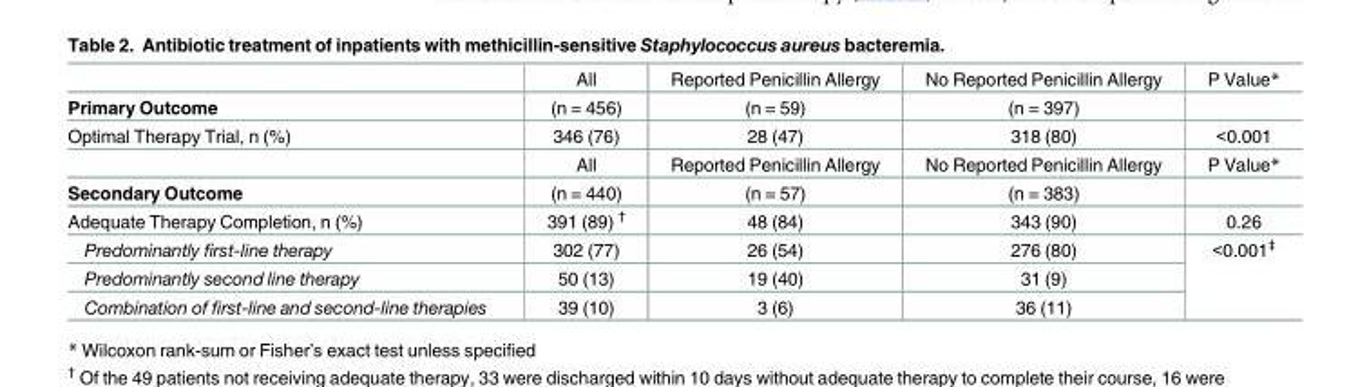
<table><thead><tr><td></td><td>All</td><td>Reported Penicillin Allergy</td><td>No Reported Penicillin Allergy</td><td>P Value*</td></tr></thead><tbody><tr><td>Primary Outcome</td><td>(n = 456)</td><td>(n = 59)</td><td>(n = 397)</td><td></td></tr><tr><td rowspan="2">Optimal Therapy Trial, n (%)</td><td>346 (76)</td><td>28 (47)</td><td>318 (80)</td><td>&lt;0.001</td></tr><tr><td>All</td><td>Reported Penicillin Allergy</td><td>No Reported Penicillin Allergy</td><td>P Value*</td></tr><tr><td>Secondary Outcome</td><td>(n = 440)</td><td>(n = 57)</td><td>(n = 383)</td><td></td></tr><tr><td>Adequate Therapy Completion, n (%)</td><td>391 (89) <sup>†</sup></td><td>48 (84)</td><td>343 (90)</td><td>0.26</td></tr><tr><td>Predominantly first-line therapy</td><td>302 (77)</td><td>26 (54)</td><td>276 (80)</td><td rowspan="3">&lt;0.001<sup>‡</sup></td></tr><tr><td>Predominantly second line therapy</td><td>50 (13)</td><td>19 (40)</td><td>31 (9)</td></tr><tr><td>Combination of first-line and second-line therapies</td><td>39 (10)</td><td>3 (6)</td><td>36 (11)</td></tr></tbody></table>